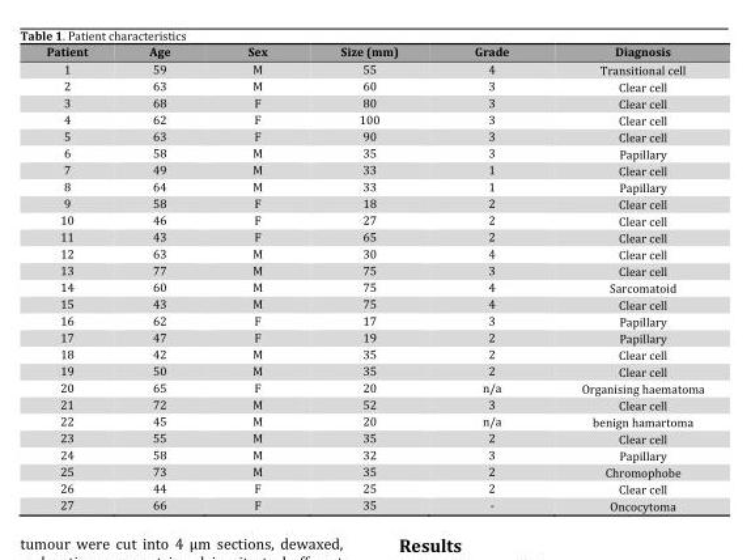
<table><thead><tr><td>Patient</td><td>Age</td><td>Sex</td><td>Size (mm)</td><td>Grade</td><td>Diagnosis</td></tr></thead><tbody><tr><td>1</td><td>59</td><td>M</td><td>55</td><td>4</td><td>Transitional cell</td></tr><tr><td>2</td><td>63</td><td>M</td><td>60</td><td>3</td><td>Clear cell</td></tr><tr><td>3</td><td>68</td><td>F</td><td>80</td><td>3</td><td>Clear cell</td></tr><tr><td>4</td><td>62</td><td>F</td><td>100</td><td>3</td><td>Clear cell</td></tr><tr><td>5</td><td>63</td><td>F</td><td>90</td><td>3</td><td>Clear cell</td></tr><tr><td>6</td><td>58</td><td>M</td><td>35</td><td>3</td><td>Papillary</td></tr><tr><td>7</td><td>49</td><td>M</td><td>33</td><td>1</td><td>Clear cell</td></tr><tr><td>8</td><td>64</td><td>M</td><td>33</td><td>1</td><td>Papillary</td></tr><tr><td>9</td><td>58</td><td>F</td><td>18</td><td>2</td><td>Clear cell</td></tr><tr><td>10</td><td>46</td><td>F</td><td>27</td><td>2</td><td>Clear cell</td></tr><tr><td>11</td><td>43</td><td>F</td><td>65</td><td>2</td><td>Clear cell</td></tr><tr><td>12</td><td>63</td><td>M</td><td>30</td><td>4</td><td>Clear cell</td></tr><tr><td>13</td><td>77</td><td>M</td><td>75</td><td>3</td><td>Clear cell</td></tr><tr><td>14</td><td>60</td><td>M</td><td>75</td><td>4</td><td>Sarcomatoid</td></tr><tr><td>15</td><td>43</td><td>M</td><td>75</td><td>4</td><td>Clear cell</td></tr><tr><td>16</td><td>62</td><td>F</td><td>17</td><td>3</td><td>Papillary</td></tr><tr><td>17</td><td>47</td><td>F</td><td>19</td><td>2</td><td>Papillary</td></tr><tr><td>18</td><td>42</td><td>M</td><td>35</td><td>2</td><td>Clear cell</td></tr><tr><td>19</td><td>50</td><td>M</td><td>35</td><td>2</td><td>Clear cell</td></tr><tr><td>20</td><td>65</td><td>F</td><td>20</td><td>n/a</td><td>Organising haematoma</td></tr><tr><td>21</td><td>72</td><td>M</td><td>52</td><td>3</td><td>Clear cell</td></tr><tr><td>22</td><td>45</td><td>M</td><td>20</td><td>n/a</td><td>benign hamartoma</td></tr><tr><td>23</td><td>55</td><td>M</td><td>35</td><td>2</td><td>Clear cell</td></tr><tr><td>24</td><td>58</td><td>M</td><td>32</td><td>3</td><td>Papillary</td></tr><tr><td>25</td><td>73</td><td>M</td><td>35</td><td>2</td><td>Chromophobe</td></tr><tr><td>26</td><td>44</td><td>F</td><td>25</td><td>2</td><td>Clear cell</td></tr><tr><td>27</td><td>66</td><td>F</td><td>35</td><td>-</td><td>Oncocytoma</td></tr></tbody></table>